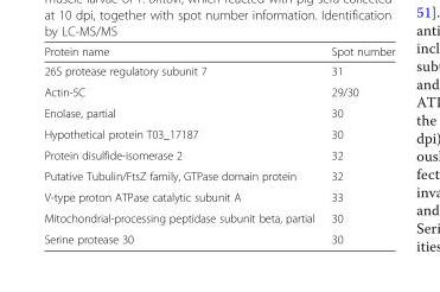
<table><thead><tr><td>Protein name</td><td>Spot number</td></tr></thead><tbody><tr><td>26S protease regulatory subunit 7</td><td>31</td></tr><tr><td>Actin-5C</td><td>29/30</td></tr><tr><td>Enolase, partial</td><td>30</td></tr><tr><td>Hypothetical protein T03_17187</td><td>30</td></tr><tr><td>Protein disulfide-isomerase 2</td><td>32</td></tr><tr><td>Putative Tubulin/FtsZ family, GTPase domain protein</td><td>32</td></tr><tr><td>V-type proton ATPase catalytic subunit A</td><td>33</td></tr><tr><td>Mitochondrial-processing peptidase subunit beta, partial</td><td>30</td></tr><tr><td>Serine protease 30</td><td>30</td></tr></tbody></table>